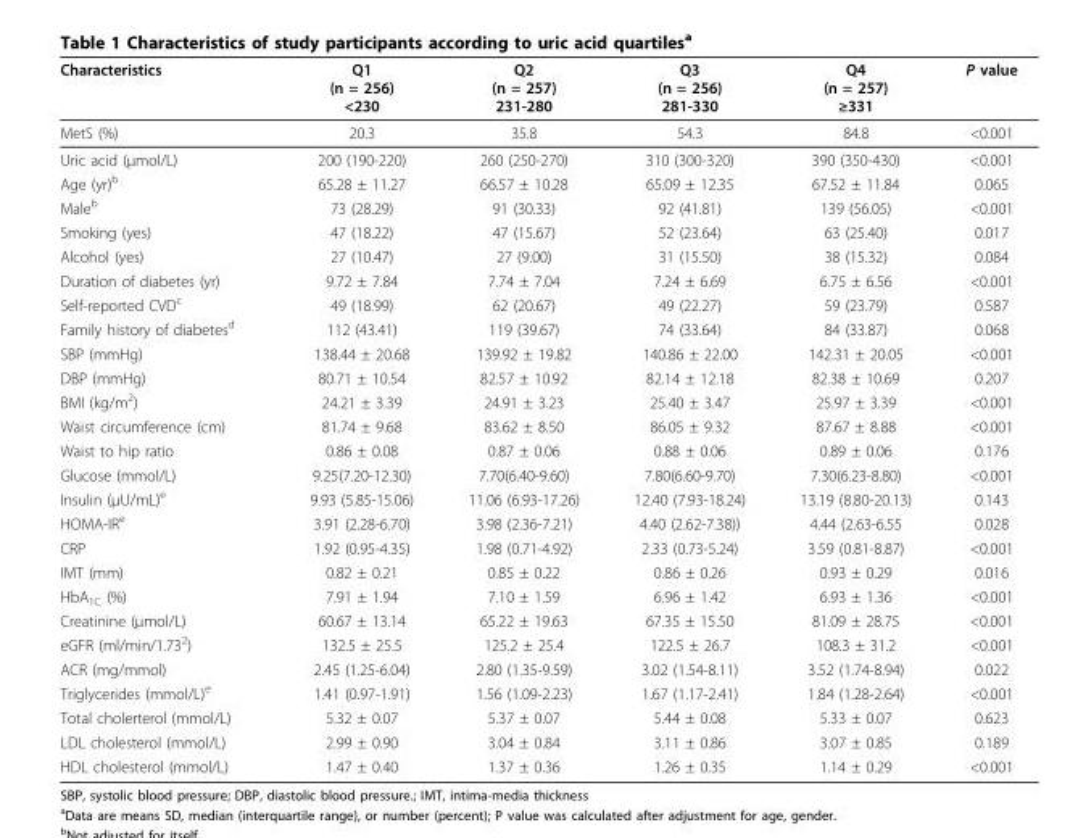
<table><thead><tr><td>Characteristics</td><td>Q1 (n = 256) &lt;230</td><td>Q2 (n = 257) 231-280</td><td>Q3 (n = 256) 281-330</td><td>Q4 (n = 257) ≥331</td><td>P value</td></tr></thead><tbody><tr><td>MetS (%)</td><td>20.3</td><td>35.8</td><td>54.3</td><td>84.8</td><td>&lt;0.001</td></tr><tr><td>Uric acid (μmol/L)</td><td>200 (190-220)</td><td>260 (250-270)</td><td>310 (300-320)</td><td>390 (350-430)</td><td>&lt;0.001</td></tr><tr><td>Age (yr)<sup>b</sup></td><td>65.28 ± 11.27</td><td>66.57 ± 10.28</td><td>65.09 ± 12.35</td><td>67.52 ± 11.84</td><td>0.065</td></tr><tr><td>Male<sup>b</sup></td><td>73 (28.29)</td><td>91 (30.33)</td><td>92 (41.81)</td><td>139 (56.05)</td><td>&lt;0.001</td></tr><tr><td>Smoking (yes)</td><td>47 (18.22)</td><td>47 (15.67)</td><td>52 (23.64)</td><td>63 (25.40)</td><td>0.017</td></tr><tr><td>Alcohol (yes)</td><td>27 (10.47)</td><td>27 (9.00)</td><td>31 (15.50)</td><td>38 (15.32)</td><td>0.084</td></tr><tr><td>Duration of diabetes (yr)</td><td>9.72 ± 7.84</td><td>7.74 ± 7.04</td><td>7.24 ± 6.69</td><td>6.75 ± 6.56</td><td>&lt;0.001</td></tr><tr><td>Self-reported CVD<sup>c</sup></td><td>49 (18.99)</td><td>62 (20.67)</td><td>49 (22.27)</td><td>59 (23.79)</td><td>0.587</td></tr><tr><td>Family history of diabetes<sup>d</sup></td><td>112 (43.41)</td><td>119 (39.67)</td><td>74 (33.64)</td><td>84 (33.87)</td><td>0.068</td></tr><tr><td>SBP (mmHg)</td><td>138.44 ± 20.68</td><td>139.92 ± 19.82</td><td>140.86 ± 22.00</td><td>142.31 ± 20.05</td><td>&lt;0.001</td></tr><tr><td>DBP (mmHg)</td><td>80.71 ± 10.54</td><td>82.57 ± 10.92</td><td>82.14 ± 12.18</td><td>82.38 ± 10.69</td><td>0.207</td></tr><tr><td>BMI (kg/m<sup>2</sup>)</td><td>24.21 ± 3.39</td><td>24.91 ± 3.23</td><td>25.40 ± 3.47</td><td>25.97 ± 3.39</td><td>&lt;0.001</td></tr><tr><td>Waist circumference (cm)</td><td>81.74 ± 9.68</td><td>83.62 ± 8.50</td><td>86.05 ± 9.32</td><td>87.67 ± 8.88</td><td>&lt;0.001</td></tr><tr><td>Waist to hip ratio</td><td>0.86 ± 0.08</td><td>0.87 ± 0.06</td><td>0.88 ± 0.06</td><td>0.89 ± 0.06</td><td>0.176</td></tr><tr><td>Glucose (mmol/L)</td><td>9.25(7.20-12.30)</td><td>7.70(6.40-9.60)</td><td>7.80(6.60-9.70)</td><td>7.30(6.23-8.80)</td><td>&lt;0.001</td></tr><tr><td>Insulin (μU/mL)<sup>e</sup></td><td>9.93 (5.85-15.06)</td><td>11.06 (6.93-17.26)</td><td>12.40 (7.93-18.24)</td><td>13.19 (8.80-20.13)</td><td>0.143</td></tr><tr><td>HOMA-IR<sup>e</sup></td><td>3.91 (2.28-6.70)</td><td>3.98 (2.36-7.21)</td><td>4.40 (2.62-7.38))</td><td>4.44 (2.63-6.55</td><td>0.028</td></tr><tr><td>CRP</td><td>1.92 (0.95-4.35)</td><td>1.98 (0.71-4.92)</td><td>2.33 (0.73-5.24)</td><td>3.59 (0.81-8.87)</td><td>&lt;0.001</td></tr><tr><td>IMT (mm)</td><td>0.82 ± 0.21</td><td>0.85 ± 0.22</td><td>0.86 ± 0.26</td><td>0.93 ± 0.29</td><td>0.016</td></tr><tr><td>HbA<sub>1C</sub> (%)</td><td>7.91 ± 1.94</td><td>7.10 ± 1.59</td><td>6.96 ± 1.42</td><td>6.93 ± 1.36</td><td>&lt;0.001</td></tr><tr><td>Creatinine (μmol/L)</td><td>60.67 ± 13.14</td><td>65.22 ± 19.63</td><td>67.35 ± 15.50</td><td>81.09 ± 28.75</td><td>&lt;0.001</td></tr><tr><td>eGFR (ml/min/1.73<sup>2</sup>)</td><td>132.5 ± 25.5</td><td>125.2 ± 25.4</td><td>122.5 ± 26.7</td><td>108.3 ± 31.2</td><td>&lt;0.001</td></tr><tr><td>ACR (mg/mmol)</td><td>2.45 (1.25-6.04)</td><td>2.80 (1.35-9.59)</td><td>3.02 (1.54-8.11)</td><td>3.52 (1.74-8.94)</td><td>0.022</td></tr><tr><td>Triglycerides (mmol/L)<sup>e</sup></td><td>1.41 (0.97-1.91)</td><td>1.56 (1.09-2.23)</td><td>1.67 (1.17-2.41)</td><td>1.84 (1.28-2.64)</td><td>&lt;0.001</td></tr><tr><td>Total cholerterol (mmol/L)</td><td>5.32 ± 0.07</td><td>5.37 ± 0.07</td><td>5.44 ± 0.08</td><td>5.33 ± 0.07</td><td>0.623</td></tr><tr><td>LDL cholesterol (mmol/L)</td><td>2.99 ± 0.90</td><td>3.04 ± 0.84</td><td>3.11 ± 0.86</td><td>3.07 ± 0.85</td><td>0.189</td></tr><tr><td>HDL cholesterol (mmol/L)</td><td>1.47 ± 0.40</td><td>1.37 ± 0.36</td><td>1.26 ± 0.35</td><td>1.14 ± 0.29</td><td>&lt;0.001</td></tr></tbody></table>